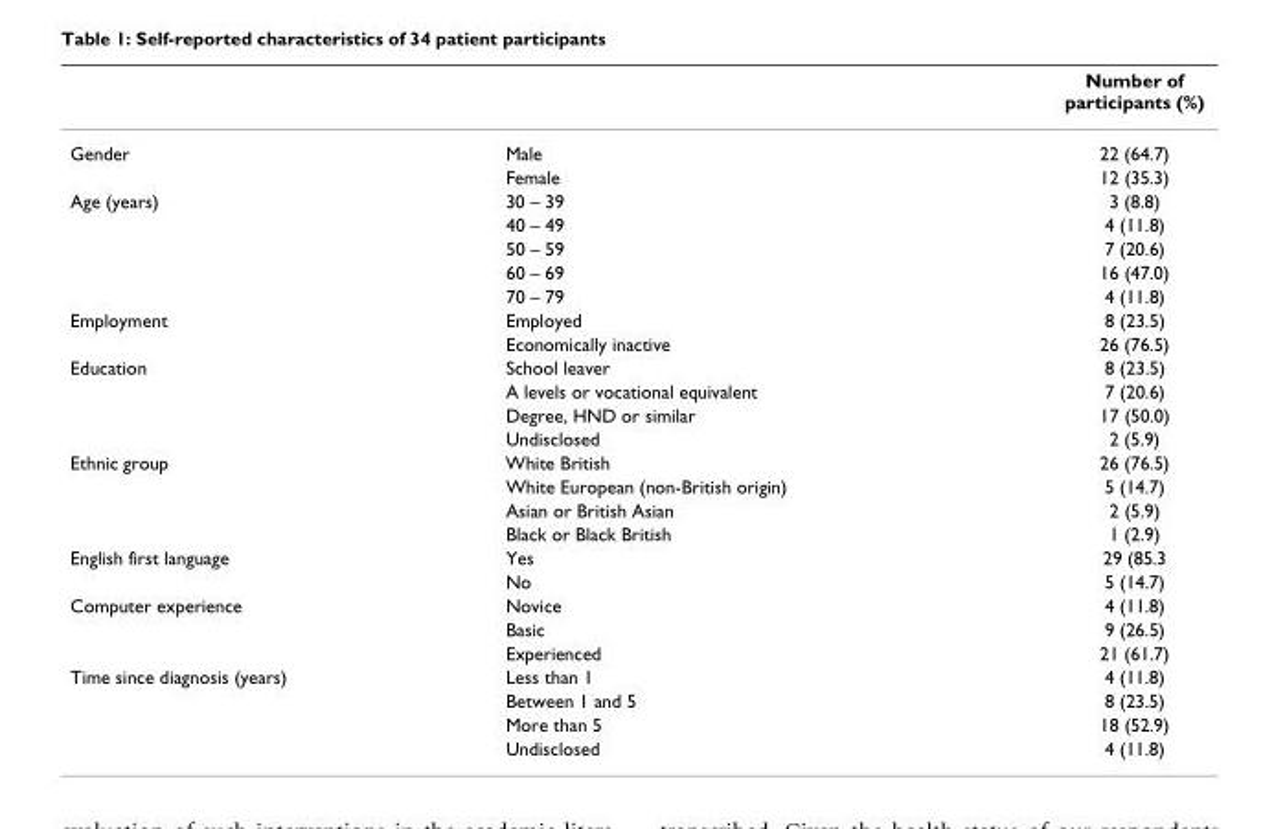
<table><thead><tr><td></td><td></td><td>Number of participants (%)</td></tr></thead><tbody><tr><td rowspan="2">Gender</td><td>Male</td><td>22 (64.7)</td></tr><tr><td>Female</td><td>12 (35.3)</td></tr><tr><td rowspan="5">Age (years)</td><td>30 – 39</td><td>3 (8.8)</td></tr><tr><td>40 – 49</td><td>4 (11.8)</td></tr><tr><td>50 – 59</td><td>7 (20.6)</td></tr><tr><td>60 – 69</td><td>16 (47.0)</td></tr><tr><td>70 – 79</td><td>4 (11.8)</td></tr><tr><td rowspan="2">Employment</td><td>Employed</td><td>8 (23.5)</td></tr><tr><td>Economically inactive</td><td>26 (76.5)</td></tr><tr><td rowspan="4">Education</td><td>School leaver</td><td>8 (23.5)</td></tr><tr><td>A levels or vocational equivalent</td><td>7 (20.6)</td></tr><tr><td>Degree, HND or similar</td><td>17 (50.0)</td></tr><tr><td>Undisclosed</td><td>2 (5.9)</td></tr><tr><td rowspan="4">Ethnic group</td><td>White British</td><td>26 (76.5)</td></tr><tr><td>White European (non-British origin)</td><td>5 (14.7)</td></tr><tr><td>Asian or British Asian</td><td>2 (5.9)</td></tr><tr><td>Black or Black British</td><td>1 (2.9)</td></tr><tr><td rowspan="2">English first language</td><td>Yes</td><td>29 (85.3</td></tr><tr><td>No</td><td>5 (14.7)</td></tr><tr><td rowspan="3">Computer experience</td><td>Novice</td><td>4 (11.8)</td></tr><tr><td>Basic</td><td>9 (26.5)</td></tr><tr><td>Experienced</td><td>21 (61.7)</td></tr><tr><td rowspan="4">Time since diagnosis (years)</td><td>Less than 1</td><td>4 (11.8)</td></tr><tr><td>Between 1 and 5</td><td>8 (23.5)</td></tr><tr><td>More than 5</td><td>18 (52.9)</td></tr><tr><td>Undisclosed</td><td>4 (11.8)</td></tr></tbody></table>